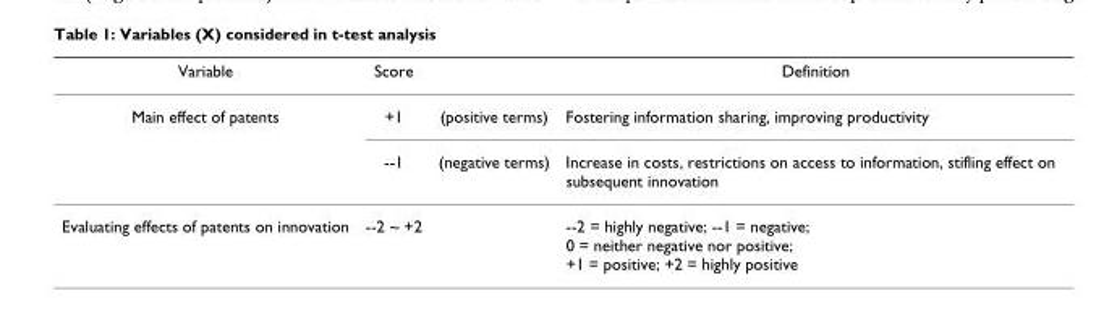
<table><thead><tr><td>Variable</td><td>Score</td><td></td><td>Definition</td></tr></thead><tbody><tr><td rowspan="2">Main effect of patents</td><td>+1</td><td>(positive terms)</td><td>Fostering information sharing, improving productivity</td></tr><tr><td>--1</td><td>(negative terms)</td><td>Increase in costs, restrictions on access to information, stifling effect on subsequent innovation</td></tr><tr><td>Evaluating effects of patents on innovation</td><td>--2 ~ +2</td><td></td><td>--2 = highly negative; --1 = negative; 0 = neither negative nor positive; +1 = positive; +2 = highly positive</td></tr></tbody></table>